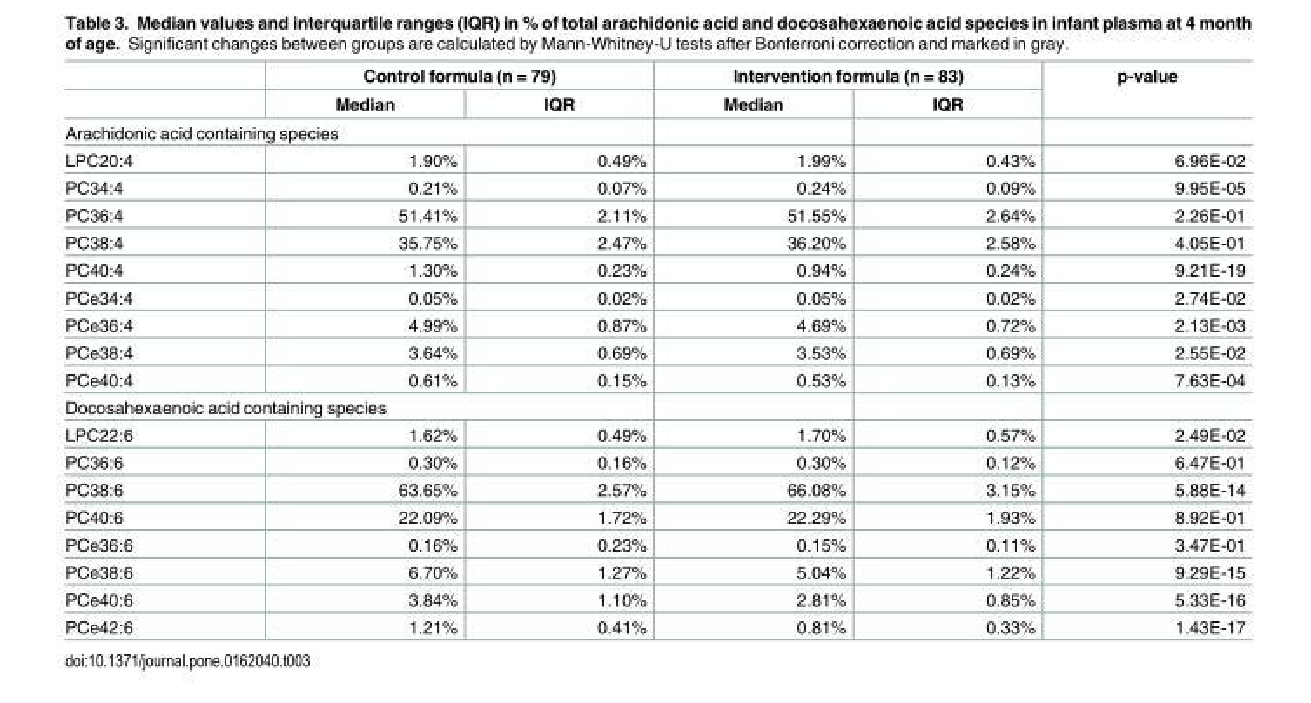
<table><thead><tr><td rowspan="2"></td><td colspan="2">Control formula (n = 79)</td><td colspan="2">Intervention formula (n = 83)</td><td rowspan="2">p-value</td></tr><tr><td>Median</td><td>IQR</td><td>Median</td><td>IQR</td></tr></thead><tbody><tr><td colspan="6">Arachidonic acid containing species</td></tr><tr><td>LPC20:4</td><td>1.90%</td><td>0.49%</td><td>1.99%</td><td>0.43%</td><td>6.96E-02</td></tr><tr><td>PC34:4</td><td>0.21%</td><td>0.07%</td><td>0.24%</td><td>0.09%</td><td>9.95E-05</td></tr><tr><td>PC36:4</td><td>51.41%</td><td>2.11%</td><td>51.55%</td><td>2.64%</td><td>2.26E-01</td></tr><tr><td>PC38:4</td><td>35.75%</td><td>2.47%</td><td>36.20%</td><td>2.58%</td><td>4.05E-01</td></tr><tr><td>PC40:4</td><td>1.30%</td><td>0.23%</td><td>0.94%</td><td>0.24%</td><td>9.21E-19</td></tr><tr><td>PCe34:4</td><td>0.05%</td><td>0.02%</td><td>0.05%</td><td>0.02%</td><td>2.74E-02</td></tr><tr><td>PCe36:4</td><td>4.99%</td><td>0.87%</td><td>4.69%</td><td>0.72%</td><td>2.13E-03</td></tr><tr><td>PCe38:4</td><td>3.64%</td><td>0.69%</td><td>3.53%</td><td>0.69%</td><td>2.55E-02</td></tr><tr><td>PCe40:4</td><td>0.61%</td><td>0.15%</td><td>0.53%</td><td>0.13%</td><td>7.63E-04</td></tr><tr><td colspan="6">Docosahexaenoic acid containing species</td></tr><tr><td>LPC22:6</td><td>1.62%</td><td>0.49%</td><td>1.70%</td><td>0.57%</td><td>2.49E-02</td></tr><tr><td>PC36:6</td><td>0.30%</td><td>0.16%</td><td>0.30%</td><td>0.12%</td><td>6.47E-01</td></tr><tr><td>PC38:6</td><td>63.65%</td><td>2.57%</td><td>66.08%</td><td>3.15%</td><td>5.88E-14</td></tr><tr><td>PC40:6</td><td>22.09%</td><td>1.72%</td><td>22.29%</td><td>1.93%</td><td>8.92E-01</td></tr><tr><td>PCe36:6</td><td>0.16%</td><td>0.23%</td><td>0.15%</td><td>0.11%</td><td>3.47E-01</td></tr><tr><td>PCe38:6</td><td>6.70%</td><td>1.27%</td><td>5.04%</td><td>1.22%</td><td>9.29E-15</td></tr><tr><td>PCe40:6</td><td>3.84%</td><td>1.10%</td><td>2.81%</td><td>0.85%</td><td>5.33E-16</td></tr><tr><td>PCe42:6</td><td>1.21%</td><td>0.41%</td><td>0.81%</td><td>0.33%</td><td>1.43E-17</td></tr></tbody></table>